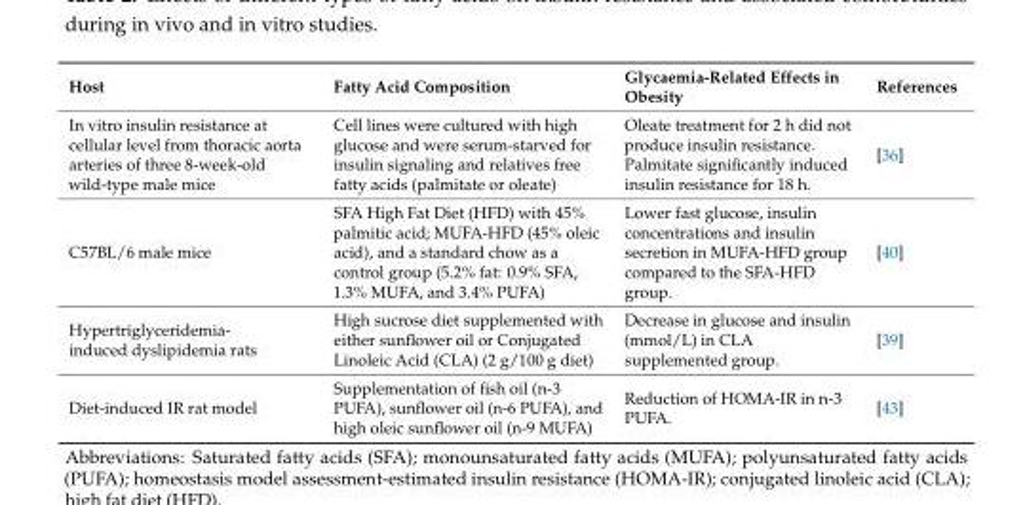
<table><thead><tr><td>Host</td><td>Fatty Acid Composition</td><td>Glycaemia-Related Effects in Obesity</td><td>References</td></tr></thead><tbody><tr><td>In vitro insulin resistance at cellular level from thoracic aorta arteries of three 8-week-old wild-type male mice</td><td>Cell lines were cultured with high glucose and were serum-starved for insulin signaling and relatives free fatty acids (palmitate or oleate)</td><td>Oleate treatment for 2 h did not produce insulin resistance. Palmitate significantly induced insulin resistance for 18 h.</td><td>[36]</td></tr><tr><td>C57BL/6 male mice</td><td>SFA High Fat Diet (HFD) with 45% palmitic acid; MUFA-HFD (45% oleic acid), and a standard chow as a control group (5.2% fat: 0.9% SFA, 1.3% MUFA, and 3.4% PUFA)</td><td>Lower fast glucose, insulin concentrations and insulin secretion in MUFA-HFD group compared to the SFA-HFD group.</td><td>[40]</td></tr><tr><td>Hypertriglyceridemia- induced dyslipidemia rats</td><td>High sucrose diet supplemented with either sunflower oil or Conjugated Linoleic Acid (CLA) (2 g/100 g diet)</td><td>Decrease in glucose and insulin (mmol/L) in CLA supplemented group.</td><td>[39]</td></tr><tr><td>Diet-induced IR rat model</td><td>Supplementation of fish oil (n-3 PUFA), sunflower oil (n-6 PUFA), and high oleic sunflower oil (n-9 MUFA)</td><td>Reduction of HOMA-IR in n-3 PUFA.</td><td>[43]</td></tr></tbody></table>